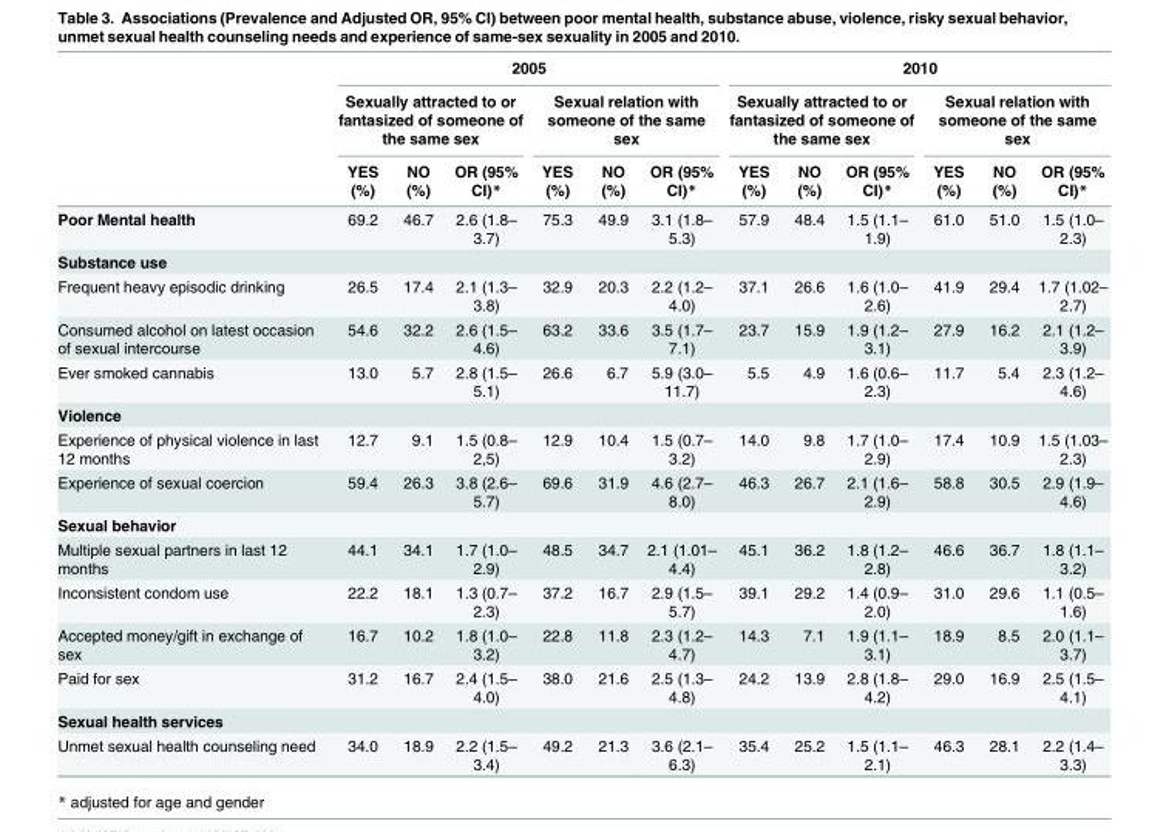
<table><thead><tr><td rowspan="3"></td><td colspan="6">2005</td><td colspan="6">2010</td></tr><tr><td colspan="3">Sexually attracted to or fantasized of someone of the same sex</td><td colspan="3">Sexual relation with someone of the same sex</td><td colspan="3">Sexually attracted to or fantasized of someone of the same sex</td><td colspan="3">Sexual relation with someone of the same sex</td></tr><tr><td>YES (%)</td><td>NO (%)</td><td>OR (95% CI)*</td><td>YES (%)</td><td>NO (%)</td><td>OR (95% CI)*</td><td>YES (%)</td><td>NO (%)</td><td>OR (95% CI)*</td><td>YES (%)</td><td>NO (%)</td><td>OR (95% CI)*</td></tr></thead><tbody><tr><td>Poor Mental health</td><td>69.2</td><td>46.7</td><td>2.6 (1.8– 3.7)</td><td>75.3</td><td>49.9</td><td>3.1 (1.8– 5.3)</td><td>57.9</td><td>48.4</td><td>1.5 (1.1– 1.9)</td><td>61.0</td><td>51.0</td><td>1.5 (1.0– 2.3)</td></tr><tr><td colspan="13">Substance use</td></tr><tr><td>Frequent heavy episodic drinking</td><td>26.5</td><td>17.4</td><td>2.1 (1.3– 3.8)</td><td>32.9</td><td>20.3</td><td>2.2 (1.2– 4.0)</td><td>37.1</td><td>26.6</td><td>1.6 (1.0– 2.6)</td><td>41.9</td><td>29.4</td><td>1.7 (1.02– 2.7)</td></tr><tr><td>Consumed alcohol on latest occasion of sexual intercourse</td><td>54.6</td><td>32.2</td><td>2.6 (1.5– 4.6)</td><td>63.2</td><td>33.6</td><td>3.5 (1.7– 7.1)</td><td>23.7</td><td>15.9</td><td>1.9 (1.2– 3.1)</td><td>27.9</td><td>16.2</td><td>2.1 (1.2– 3.9)</td></tr><tr><td>Ever smoked cannabis</td><td>13.0</td><td>5.7</td><td>2.8 (1.5– 5.1)</td><td>26.6</td><td>6.7</td><td>5.9 (3.0– 11.7)</td><td>5.5</td><td>4.9</td><td>1.6 (0.6– 2.3)</td><td>11.7</td><td>5.4</td><td>2.3 (1.2– 4.6)</td></tr><tr><td colspan="13">Violence</td></tr><tr><td>Experience of physical violence in last 12 months</td><td>12.7</td><td>9.1</td><td>1.5 (0.8– 2,5)</td><td>12.9</td><td>10.4</td><td>1.5 (0.7– 3.2)</td><td>14.0</td><td>9.8</td><td>1.7 (1.0– 2.9)</td><td>17.4</td><td>10.9</td><td>1.5 (1.03– 2.3)</td></tr><tr><td>Experience of sexual coercion</td><td>59.4</td><td>26.3</td><td>3.8 (2.6– 5.7)</td><td>69.6</td><td>31.9</td><td>4.6 (2.7– 8.0)</td><td>46.3</td><td>26.7</td><td>2.1 (1.6– 2.9)</td><td>58.8</td><td>30.5</td><td>2.9 (1.9– 4.6)</td></tr><tr><td colspan="13">Sexual behavior</td></tr><tr><td>Multiple sexual partners in last 12 months</td><td>44.1</td><td>34.1</td><td>1.7 (1.0– 2.9)</td><td>48.5</td><td>34.7</td><td>2.1 (1.01– 4.4)</td><td>45.1</td><td>36.2</td><td>1.8 (1.2– 2.8)</td><td>46.6</td><td>36.7</td><td>1.8 (1.1– 3.2)</td></tr><tr><td>Inconsistent condom use</td><td>22.2</td><td>18.1</td><td>1.3 (0.7– 2.3)</td><td>37.2</td><td>16.7</td><td>2.9 (1.5– 5.7)</td><td>39.1</td><td>29.2</td><td>1.4 (0.9– 2.0)</td><td>31.0</td><td>29.6</td><td>1.1 (0.5– 1.6)</td></tr><tr><td>Accepted money/gift in exchange of sex</td><td>16.7</td><td>10.2</td><td>1.8 (1.0– 3.2)</td><td>22.8</td><td>11.8</td><td>2.3 (1.2– 4.7)</td><td>14.3</td><td>7.1</td><td>1.9 (1.1– 3.1)</td><td>18.9</td><td>8.5</td><td>2.0 (1.1– 3.7)</td></tr><tr><td>Paid for sex</td><td>31.2</td><td>16.7</td><td>2.4 (1.5– 4.0)</td><td>38.0</td><td>21.6</td><td>2.5 (1.3– 4.8)</td><td>24.2</td><td>13.9</td><td>2.8 (1.8– 4.2)</td><td>29.0</td><td>16.9</td><td>2.5 (1.5– 4.1)</td></tr><tr><td colspan="13">Sexual health services</td></tr><tr><td>Unmet sexual health counseling need</td><td>34.0</td><td>18.9</td><td>2.2 (1.5– 3.4)</td><td>49.2</td><td>21.3</td><td>3.6 (2.1– 6.3)</td><td>35.4</td><td>25.2</td><td>1.5 (1.1– 2.1)</td><td>46.3</td><td>28.1</td><td>2.2 (1.4– 3.3)</td></tr></tbody></table>